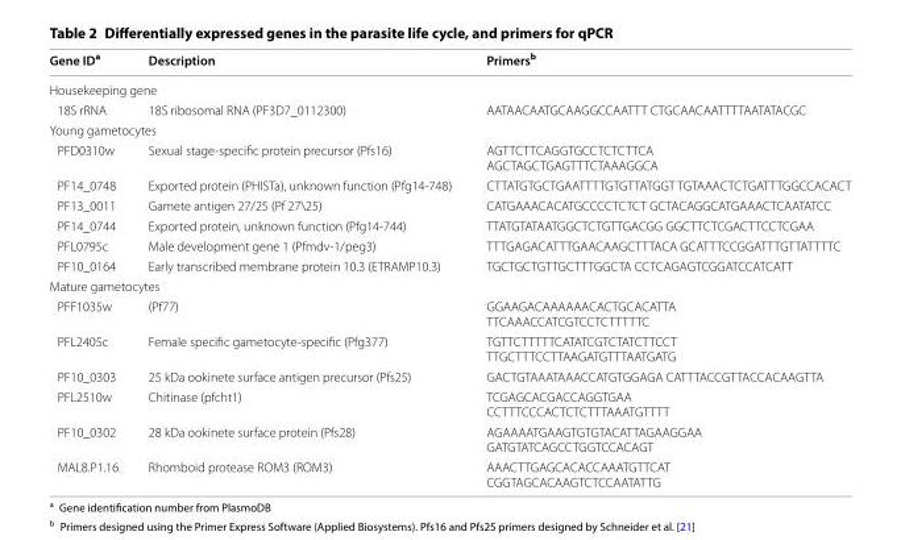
<table><thead><tr><td>Gene ID<sup>a</sup></td><td>Description</td><td>Primers<sup>b</sup></td></tr></thead><tbody><tr><td colspan="3">Housekeeping gene</td></tr><tr><td>18S rRNA</td><td>18S ribosomal RNA (PF3D7_0112300)</td><td>AATAACAATGCAAGGCCAATTT CTGCAACAATTTTAATATACGC</td></tr><tr><td colspan="3">Young gametocytes</td></tr><tr><td>PFD0310w</td><td>Sexual stage‑specific protein precursor (Pfs16)</td><td>AGTTCTTCAGGTGCCTCTCTTCA AGCTAGCTGAGTTTCTAAAGGCA</td></tr><tr><td>PF14_0748</td><td>Exported protein (PHISTa), unknown function (Pfg14‑748)</td><td>CTTATGTGCTGAATTTTGTGTTATGGT TGTAAACTCTGATTTGGCCACACT</td></tr><tr><td>PF13_0011</td><td>Gamete antigen 27/25 (Pf 27\25)</td><td>CATGAAACACATGCCCCTCTCT GCTACAGGCATGAAACTCAATATCC</td></tr><tr><td>PF14_0744</td><td>Exported protein, unknown function (Pfg14‑744)</td><td>TTATGTATAATGGCTCTGTTGACGG GGCTTCTCGACTTCCTCGAA</td></tr><tr><td>PFL0795c</td><td>Male development gene 1 (Pfmdv‑1/peg3)</td><td>TTTGAGACATTTGAACAAGCTTTACA GCATTTCCGGATTTGTTATTTTC</td></tr><tr><td>PF10_0164</td><td>Early transcribed membrane protein 10.3 (ETRAMP10.3)</td><td>TGCTGCTGTTGCTTTGGCTA CCTCAGAGTCGGATCCATCATT</td></tr><tr><td colspan="3">Mature gametocytes</td></tr><tr><td>PFF1035w</td><td>(Pf77)</td><td>GGAAGACAAAAAACACTGCACATTA TTCAAACCATCGTCCTCTTTTTC</td></tr><tr><td>PFL2405c</td><td>Female specific gametocyte‑specific (Pfg377)</td><td>TGTTCTTTTTCATATCGTCTATCTTCCT TTGCTTTCCTTAAGATGTTTAATGATG</td></tr><tr><td>PF10_0303</td><td>25 kDa ookinete surface antigen precursor (Pfs25)</td><td>GACTGTAAATAAACCATGTGGAGA CATTTACCGTTACCACAAGTTA</td></tr><tr><td>PFL2510w</td><td>Chitinase (pfcht1)</td><td>TCGAGCACGACCAGGTGAA CCTTTCCCACTCTCTTTAAATGTTTT</td></tr><tr><td>PF10_0302</td><td>28 kDa ookinete surface protein (Pfs28)</td><td>AGAAAATGAAGTGTGTACATTAGAAGGAA GATGTATCAGCCTGGTCCACAGT</td></tr><tr><td>MAL8.P1.16</td><td>Rhomboid protease ROM3 (ROM3)</td><td>AAACTTGAGCACACCAAATGTTCAT CGGTAGCACAAGTCTCCAATATTG</td></tr></tbody></table>